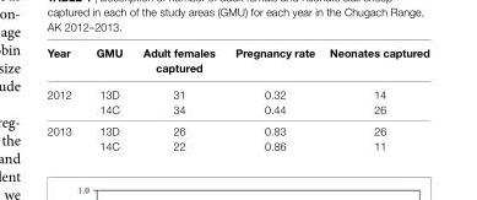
<table><thead><tr><td>Year</td><td>gMU</td><td>adult females captured</td><td>Pregnancy rate</td><td>neonates captured</td></tr></thead><tbody><tr><td rowspan="2">2012</td><td>13D</td><td>31</td><td>0.32</td><td>14</td></tr><tr><td>14C</td><td>34</td><td>0.44</td><td>26</td></tr><tr><td rowspan="2">2013</td><td>13D</td><td>26</td><td>0.83</td><td>26</td></tr><tr><td>14C</td><td>22</td><td>0.86</td><td>11</td></tr></tbody></table>